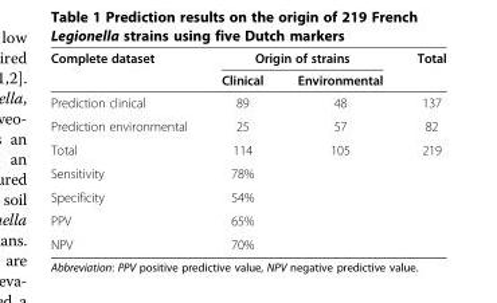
<table><thead><tr><td rowspan="2">Complete dataset</td><td colspan="2">Origin of strains</td><td rowspan="2">Total</td></tr><tr><td>Clinical</td><td>Environmental</td></tr></thead><tbody><tr><td>Prediction clinical</td><td>89</td><td>48</td><td>137</td></tr><tr><td>Prediction environmental</td><td>25</td><td>57</td><td>82</td></tr><tr><td>Total</td><td>114</td><td>105</td><td>219</td></tr><tr><td>Sensitivity</td><td>78%</td><td></td><td></td></tr><tr><td>Specificity</td><td>54%</td><td></td><td></td></tr><tr><td>PPV</td><td>65%</td><td></td><td></td></tr><tr><td>NPV</td><td>70%</td><td></td><td></td></tr></tbody></table>